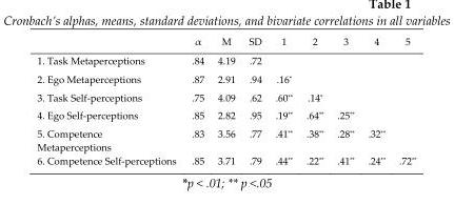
<table><thead><tr><td></td><td>α</td><td>M</td><td>SD</td><td>1</td><td>2</td><td>3</td><td>4</td><td>5</td></tr></thead><tbody><tr><td>1. Task Metaperceptions</td><td>.84</td><td>4.19</td><td>.72</td><td></td><td></td><td></td><td></td><td></td></tr><tr><td>2. Ego Metaperceptions</td><td>.87</td><td>2.91</td><td>.94</td><td>.16*</td><td></td><td></td><td></td><td></td></tr><tr><td>3. Task Self-perceptions</td><td>.75</td><td>4.09</td><td>.62</td><td>.60**</td><td>.14*</td><td></td><td></td><td></td></tr><tr><td>4. Ego Self-perceptions</td><td>.85</td><td>2.82</td><td>.95</td><td>.19**</td><td>.64**</td><td>.25**</td><td></td><td></td></tr><tr><td>5. Competence Metaperceptions</td><td>.83</td><td>3.56</td><td>.77</td><td>.41**</td><td>.38**</td><td>.28**</td><td>.32**</td><td></td></tr><tr><td>6. Competence Self-perceptions</td><td>.85</td><td>3.71</td><td>.79</td><td>.44**</td><td>.22**</td><td>.41**</td><td>.24**</td><td>.72**</td></tr></tbody></table>